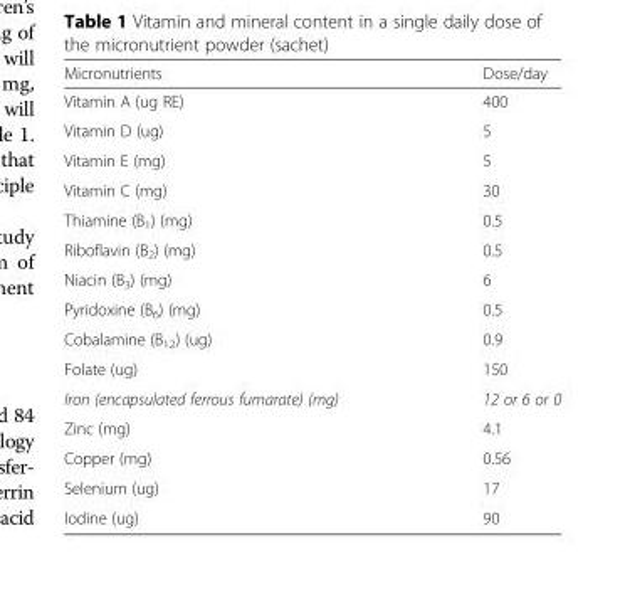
<table><thead><tr><td>Micronutrients</td><td>Dose/day</td></tr></thead><tbody><tr><td>Vitamin A (ug RE)</td><td>400</td></tr><tr><td>Vitamin D (ug)</td><td>5</td></tr><tr><td>Vitamin E (mg)</td><td>5</td></tr><tr><td>Vitamin C (mg)</td><td>30</td></tr><tr><td>Thiamine (B<sub>1</sub>) (mg)</td><td>0.5</td></tr><tr><td>Riboflavin (B<sub>2</sub>) (mg)</td><td>0.5</td></tr><tr><td>Niacin (B<sub>3</sub>) (mg)</td><td>6</td></tr><tr><td>Pyridoxine (B<sub>6</sub>) (mg)</td><td>0.5</td></tr><tr><td>Cobalamine (B<sub>12</sub>) (ug)</td><td>0.9</td></tr><tr><td>Folate (ug)</td><td>150</td></tr><tr><td>Iron (encapsulated ferrous fumarate) (mg)</td><td>12 or 6 or 0</td></tr><tr><td>Zinc (mg)</td><td>4.1</td></tr><tr><td>Copper (mg)</td><td>0.56</td></tr><tr><td>Selenium (ug)</td><td>17</td></tr><tr><td>Iodine (ug)</td><td>90</td></tr></tbody></table>